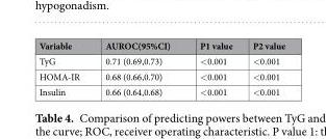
<table><thead><tr><td>Variable</td><td>AUROC(95%CI)</td><td>P1 value</td><td>P2 value</td></tr></thead><tbody><tr><td>TyG</td><td>0.71 (0.69,0.73)</td><td>&lt;0.001</td><td>&lt;0.001</td></tr><tr><td>HOMA-IR</td><td>0.68 (0.66,0.70)</td><td>&lt;0.001</td><td>&lt;0.001</td></tr><tr><td>Insulin</td><td>0.66 (0.64,0.68)</td><td>&lt;0.001</td><td>&lt;0.001</td></tr></tbody></table>